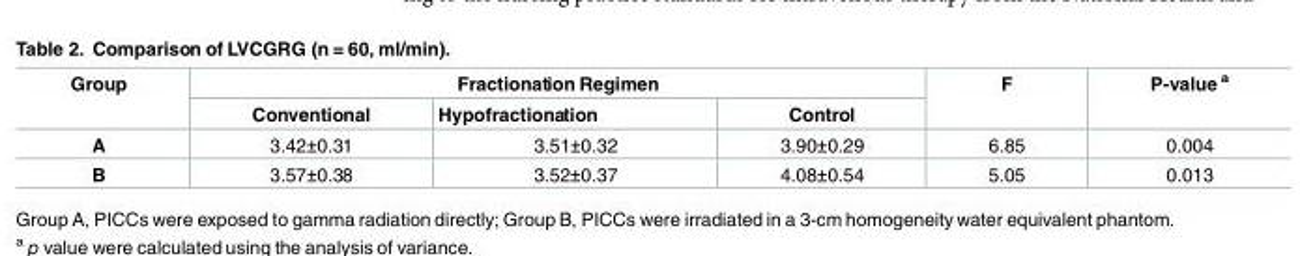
<table><thead><tr><td rowspan="2">Group</td><td colspan="3">Fractionation Regimen</td><td rowspan="2">F</td><td rowspan="2">P-value <sup>a</sup></td></tr><tr><td>Conventional</td><td>Hypofractionation</td><td>Control</td></tr></thead><tbody><tr><td>A</td><td>3.42±0.31</td><td>3.51±0.32</td><td>3.90±0.29</td><td>6.85</td><td>0.004</td></tr><tr><td>B</td><td>3.57±0.38</td><td>3.52±0.37</td><td>4.08±0.54</td><td>5.05</td><td>0.013</td></tr></tbody></table>